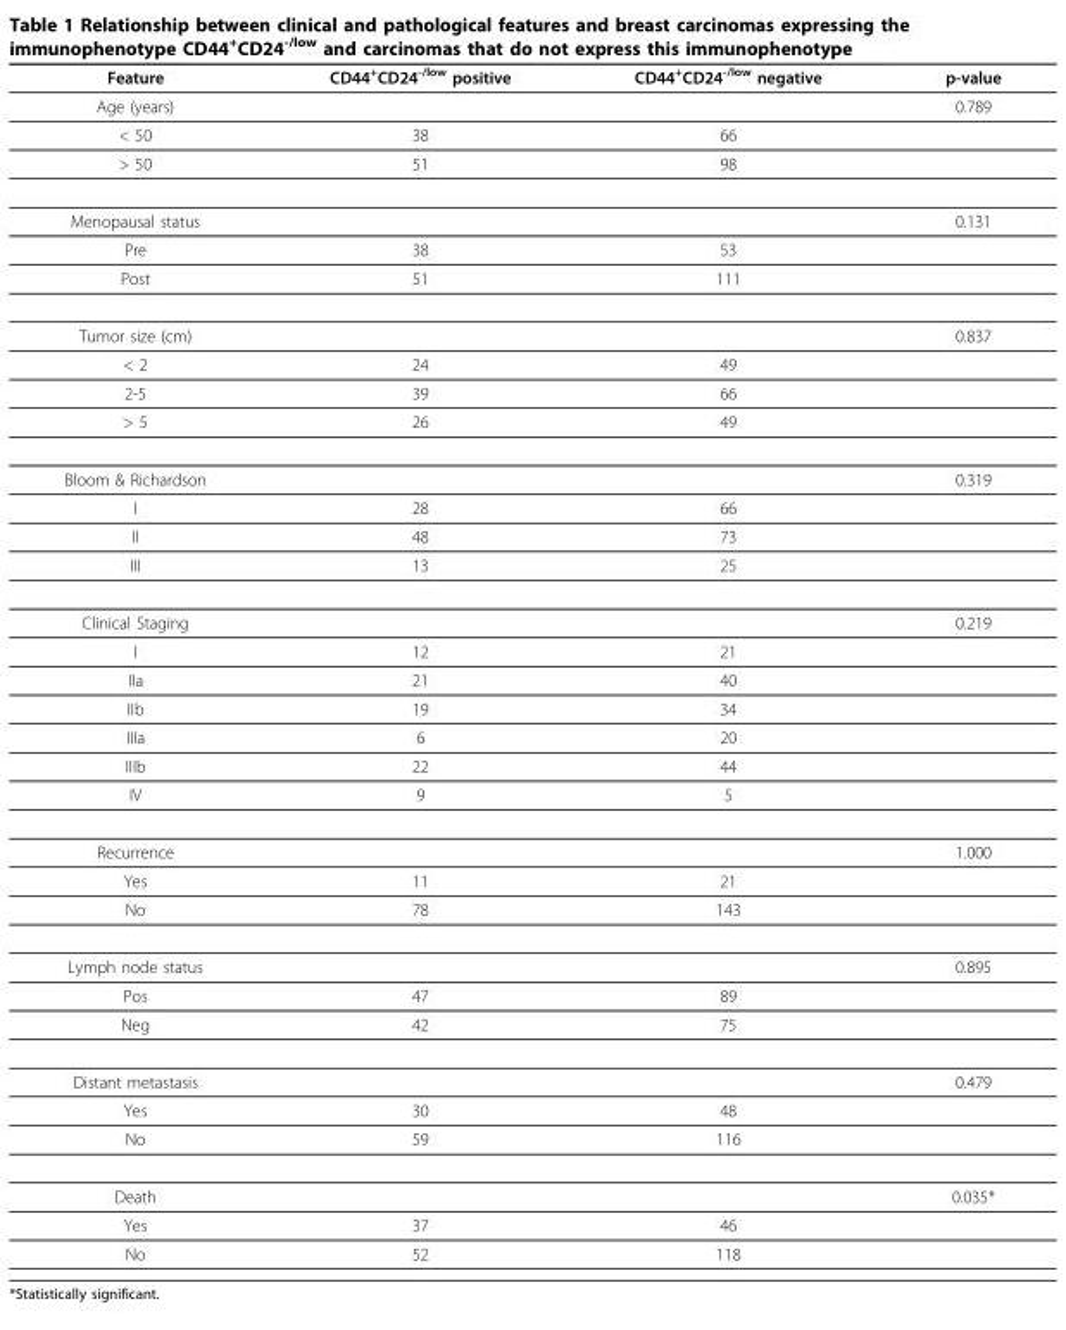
<table><thead><tr><td>Feature</td><td>CD44+CD24-/low positive</td><td>CD44+CD24-/low negative</td><td>p-value</td></tr></thead><tbody><tr><td>Age (years)</td><td></td><td></td><td>0.789</td></tr><tr><td>&lt; 50</td><td>38</td><td>66</td><td></td></tr><tr><td>&gt; 50</td><td>51</td><td>98</td><td></td></tr><tr><td>Menopausal status</td><td></td><td></td><td>0.131</td></tr><tr><td>Pre</td><td>38</td><td>53</td><td></td></tr><tr><td>Post</td><td>51</td><td>111</td><td></td></tr><tr><td>Tumor size (cm)</td><td></td><td></td><td>0.837</td></tr><tr><td>&lt; 2</td><td>24</td><td>49</td><td></td></tr><tr><td>2-5</td><td>39</td><td>66</td><td></td></tr><tr><td>&gt; 5</td><td>26</td><td>49</td><td></td></tr><tr><td>Bloom &amp; Richardson</td><td></td><td></td><td>0.319</td></tr><tr><td>I</td><td>28</td><td>66</td><td></td></tr><tr><td>II</td><td>48</td><td>73</td><td></td></tr><tr><td>III</td><td>13</td><td>25</td><td></td></tr><tr><td>Clinical Staging</td><td></td><td></td><td>0.219</td></tr><tr><td>I</td><td>12</td><td>21</td><td></td></tr><tr><td>IIa</td><td>21</td><td>40</td><td></td></tr><tr><td>IIb</td><td>19</td><td>34</td><td></td></tr><tr><td>IIIa</td><td>6</td><td>20</td><td></td></tr><tr><td>IIIb</td><td>22</td><td>44</td><td></td></tr><tr><td>IV</td><td>9</td><td>5</td><td></td></tr><tr><td>Recurrence</td><td></td><td></td><td>1.000</td></tr><tr><td>Yes</td><td>11</td><td>21</td><td></td></tr><tr><td>No</td><td>78</td><td>143</td><td></td></tr><tr><td>Lymph node status</td><td></td><td></td><td>0.895</td></tr><tr><td>Pos</td><td>47</td><td>89</td><td></td></tr><tr><td>Neg</td><td>42</td><td>75</td><td></td></tr><tr><td>Distant metastasis</td><td></td><td></td><td>0.479</td></tr><tr><td>Yes</td><td>30</td><td>48</td><td></td></tr><tr><td>No</td><td>59</td><td>116</td><td></td></tr><tr><td>Death</td><td></td><td></td><td>0.035*</td></tr><tr><td>Yes</td><td>37</td><td>46</td><td></td></tr><tr><td>No</td><td>52</td><td>118</td><td></td></tr></tbody></table>